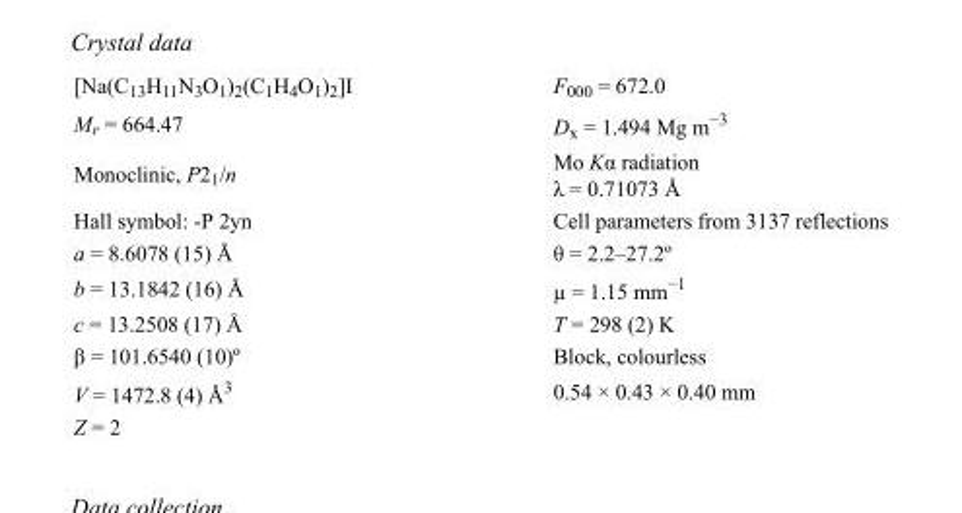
<table><tbody><tr><td>[Na(C13H11N3O1)2(C1H4O1)2]I</td><td>F000 = 672.0</td></tr><tr><td>M<sub>r</sub> = 664.47</td><td>D<sub>x</sub> = 1.494 Mg m<sup>−3</sup></td></tr><tr><td>Monoclinic, P2<sub>1</sub>/n</td><td>Mo Kα radiation λ = 0.71073 Å</td></tr><tr><td>Hall symbol: -P 2yn</td><td>Cell parameters from 3137 reflections</td></tr><tr><td>a = 8.6078 (15) Å</td><td>θ = 2.2–27.2º</td></tr><tr><td>b = 13.1842 (16) Å</td><td>µ = 1.15 mm<sup>−1</sup></td></tr><tr><td>c = 13.2508 (17) Å</td><td>T = 298 (2) K</td></tr><tr><td>β = 101.6540 (10)º</td><td>Block, colourless</td></tr><tr><td>V = 1472.8 (4) Å<sup>3</sup></td><td>0.54 × 0.43 × 0.40 mm</td></tr><tr><td>Z = 2</td><td></td></tr></tbody></table>